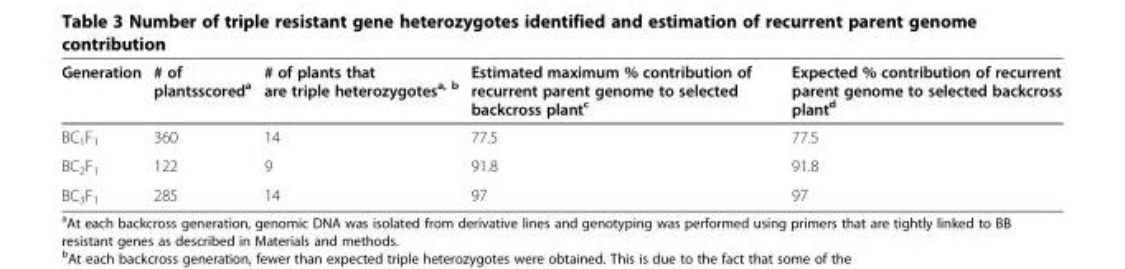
<table><thead><tr><td>Generation</td><td># of plantsscored<sup>a</sup></td><td># of plants that are triple heterozygotes<sup>a, b</sup></td><td>Estimated maximum % contribution of recurrent parent genome to selected backcross plant<sup>c</sup></td><td>Expected % contribution of recurrent parent genome to selected backcross plant<sup>d</sup></td></tr></thead><tbody><tr><td>BC<sub>1</sub>F<sub>1</sub></td><td>360</td><td>14</td><td>77.5</td><td>77.5</td></tr><tr><td>BC<sub>2</sub>F<sub>1</sub></td><td>122</td><td>9</td><td>91.8</td><td>91.8</td></tr><tr><td>BC<sub>3</sub>F<sub>1</sub></td><td>285</td><td>14</td><td>97</td><td>97</td></tr></tbody></table>